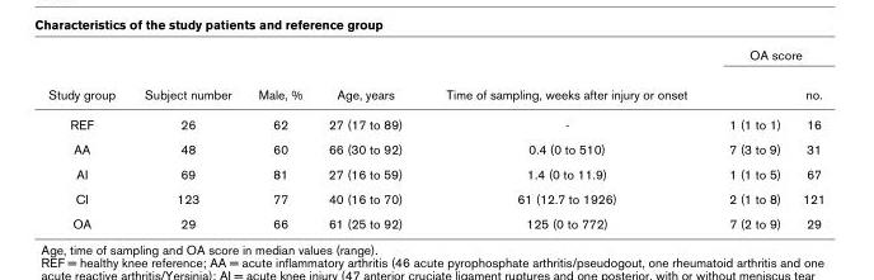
<table><thead><tr><td rowspan="2">Study group</td><td rowspan="2">Subject number</td><td rowspan="2">Male, %</td><td rowspan="2">Age, years</td><td rowspan="2">Time of sampling, weeks after injury or onset</td><td colspan="2">OA score</td></tr><tr><td></td><td>no.</td></tr></thead><tbody><tr><td>REF</td><td>26</td><td>62</td><td>27 (17 to 89)</td><td>-</td><td>1 (1 to 1)</td><td>16</td></tr><tr><td>AA</td><td>48</td><td>60</td><td>66 (30 to 92)</td><td>0.4 (0 to 510)</td><td>7 (3 to 9)</td><td>31</td></tr><tr><td>AI</td><td>69</td><td>81</td><td>27 (16 to 59)</td><td>1.4 (0 to 11.9)</td><td>1 (1 to 5)</td><td>67</td></tr><tr><td>CI</td><td>123</td><td>77</td><td>40 (16 to 70)</td><td>61 (12.7 to 1926)</td><td>2 (1 to 8)</td><td>121</td></tr><tr><td>OA</td><td>29</td><td>66</td><td>61 (25 to 92)</td><td>125 (0 to 772)</td><td>7 (2 to 9)</td><td>29</td></tr></tbody></table>